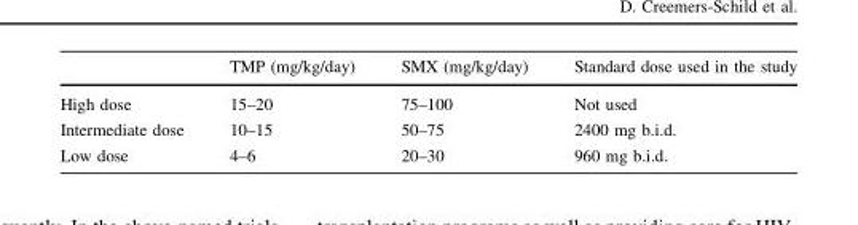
<table><thead><tr><td></td><td>TMP (mg/kg/day)</td><td>SMX (mg/kg/day)</td><td>Standard dose used in the study</td></tr></thead><tbody><tr><td>High dose</td><td>15–20</td><td>75–100</td><td>Not used</td></tr><tr><td>Intermediate dose</td><td>10–15</td><td>50–75</td><td>2400 mg b.i.d.</td></tr><tr><td>Low dose</td><td>4–6</td><td>20–30</td><td>960 mg b.i.d.</td></tr></tbody></table>